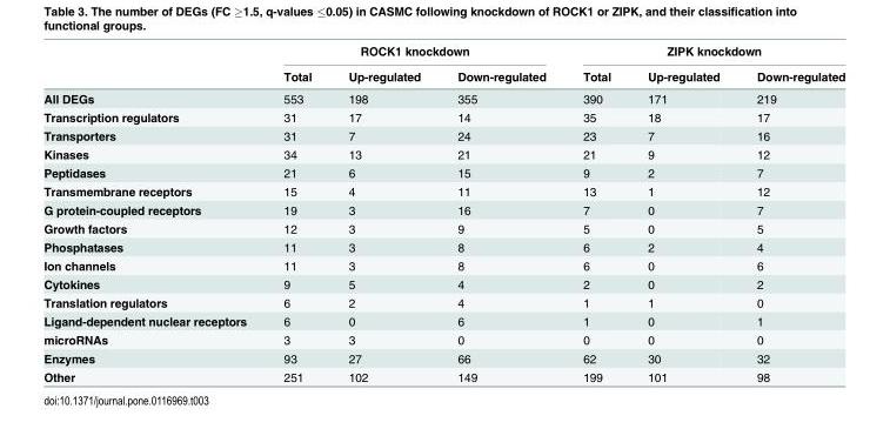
<table><thead><tr><td rowspan="2"></td><td colspan="3">ROCK1 knockdown</td><td colspan="3">ZIPK knockdown</td></tr><tr><td>Total</td><td>Up-regulated</td><td>Down-regulated</td><td>Total</td><td>Up-regulated</td><td>Down-regulated</td></tr></thead><tbody><tr><td>All DEGs</td><td>553</td><td>198</td><td>355</td><td>390</td><td>171</td><td>219</td></tr><tr><td>Transcription regulators</td><td>31</td><td>17</td><td>14</td><td>35</td><td>18</td><td>17</td></tr><tr><td>Transporters</td><td>31</td><td>7</td><td>24</td><td>23</td><td>7</td><td>16</td></tr><tr><td>Kinases</td><td>34</td><td>13</td><td>21</td><td>21</td><td>9</td><td>12</td></tr><tr><td>Peptidases</td><td>21</td><td>6</td><td>15</td><td>9</td><td>2</td><td>7</td></tr><tr><td>Transmembrane receptors</td><td>15</td><td>4</td><td>11</td><td>13</td><td>1</td><td>12</td></tr><tr><td>G protein-coupled receptors</td><td>19</td><td>3</td><td>16</td><td>7</td><td>0</td><td>7</td></tr><tr><td>Growth factors</td><td>12</td><td>3</td><td>9</td><td>5</td><td>0</td><td>5</td></tr><tr><td>Phosphatases</td><td>11</td><td>3</td><td>8</td><td>6</td><td>2</td><td>4</td></tr><tr><td>Ion channels</td><td>11</td><td>3</td><td>8</td><td>6</td><td>0</td><td>6</td></tr><tr><td>Cytokines</td><td>9</td><td>5</td><td>4</td><td>2</td><td>0</td><td>2</td></tr><tr><td>Translation regulators</td><td>6</td><td>2</td><td>4</td><td>1</td><td>1</td><td>0</td></tr><tr><td>Ligand-dependent nuclear receptors</td><td>6</td><td>0</td><td>6</td><td>1</td><td>0</td><td>1</td></tr><tr><td>microRNAs</td><td>3</td><td>3</td><td>0</td><td>0</td><td>0</td><td>0</td></tr><tr><td>Enzymes</td><td>93</td><td>27</td><td>66</td><td>62</td><td>30</td><td>32</td></tr><tr><td>Other</td><td>251</td><td>102</td><td>149</td><td>199</td><td>101</td><td>98</td></tr></tbody></table>